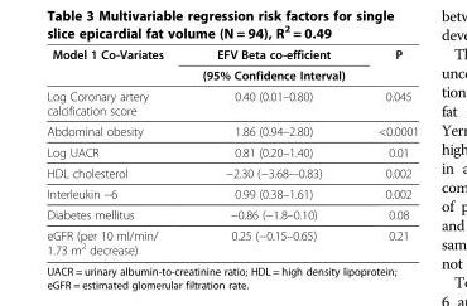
<table><thead><tr><td rowspan="2">Model 1 Co-Variates</td><td rowspan="2">EFV Beta co-efficient (95% Confidence Interval)</td><td rowspan="2">P</td></tr><tr></tr></thead><tbody><tr><td>Log Coronary artery calcification score</td><td>0.40 (0.01–0.80)</td><td>0.045</td></tr><tr><td>Abdominal obesity</td><td>1.86 (0.94–2.80)</td><td>&lt;0.0001</td></tr><tr><td>Log UACR</td><td>0.81 (0.20–1.40)</td><td>0.01</td></tr><tr><td>HDL cholesterol</td><td>−2.30 (−3.68–-0.83)</td><td>0.002</td></tr><tr><td>Interleukin −6</td><td>0.99 (0.38–1.61)</td><td>0.002</td></tr><tr><td>Diabetes mellitus</td><td>−0.86 (−1.8–0.10)</td><td>0.08</td></tr><tr><td>eGFR (per 10 ml/min/ 1.73 m<sup>2</sup> decrease)</td><td>0.25 (−0.15–0.65)</td><td>0.21</td></tr></tbody></table>